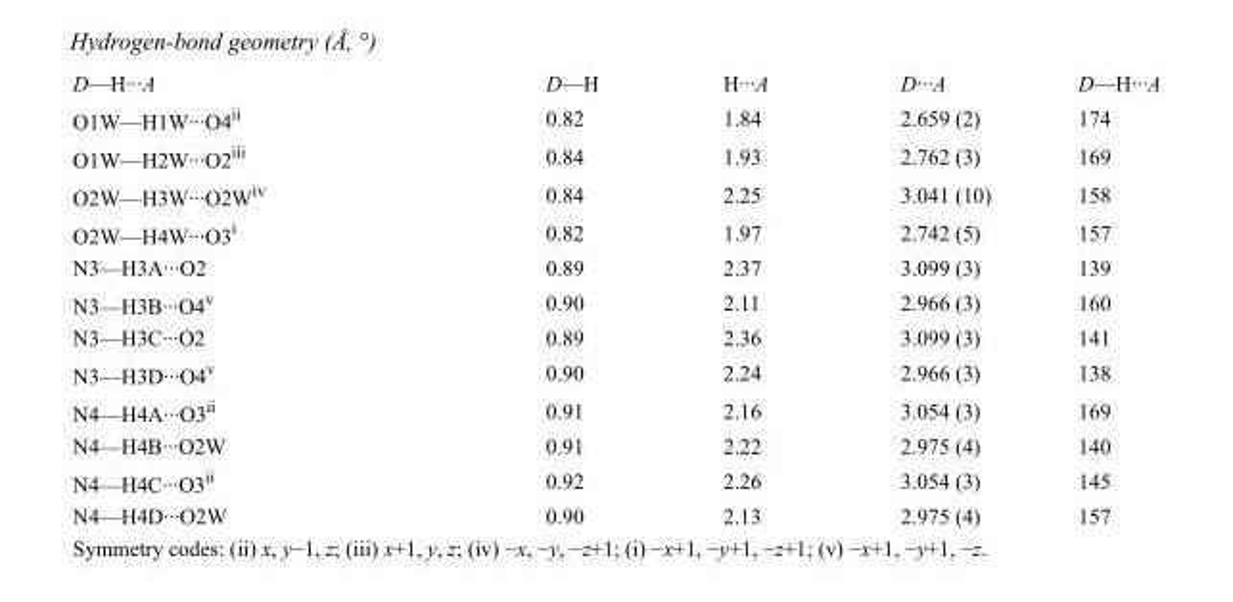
<table><tbody><tr><td>D—H···A</td><td>D—H</td><td>H···A</td><td>D···A</td><td>D—H···A</td></tr><tr><td>O1W—H1W···O4<sup>ii</sup></td><td>0.82</td><td>1.84</td><td>2.659 (2)</td><td>174</td></tr><tr><td>O1W—H2W···O2<sup>iii</sup></td><td>0.84</td><td>1.93</td><td>2.762 (3)</td><td>169</td></tr><tr><td>O2W—H3W···O2W<sup>iv</sup></td><td>0.84</td><td>2.25</td><td>3.041 (10)</td><td>158</td></tr><tr><td>O2W—H4W···O3<sup>i</sup></td><td>0.82</td><td>1.97</td><td>2.742 (5)</td><td>157</td></tr><tr><td>N3—H3A···O2</td><td>0.89</td><td>2.37</td><td>3.099 (3)</td><td>139</td></tr><tr><td>N3—H3B···O4<sup>v</sup></td><td>0.90</td><td>2.11</td><td>2.966 (3)</td><td>160</td></tr><tr><td>N3—H3C···O2</td><td>0.89</td><td>2.36</td><td>3.099 (3)</td><td>141</td></tr><tr><td>N3—H3D···O4<sup>v</sup></td><td>0.90</td><td>2.24</td><td>2.966 (3)</td><td>138</td></tr><tr><td>N4—H4A···O3<sup>ii</sup></td><td>0.91</td><td>2.16</td><td>3.054 (3)</td><td>169</td></tr><tr><td>N4—H4B···O2W</td><td>0.91</td><td>2.22</td><td>2.975 (4)</td><td>140</td></tr><tr><td>N4—H4C···O3<sup>ii</sup></td><td>0.92</td><td>2.26</td><td>3.054 (3)</td><td>145</td></tr><tr><td>N4—H4D···O2W</td><td>0.90</td><td>2.13</td><td>2.975 (4)</td><td>157</td></tr></tbody></table>